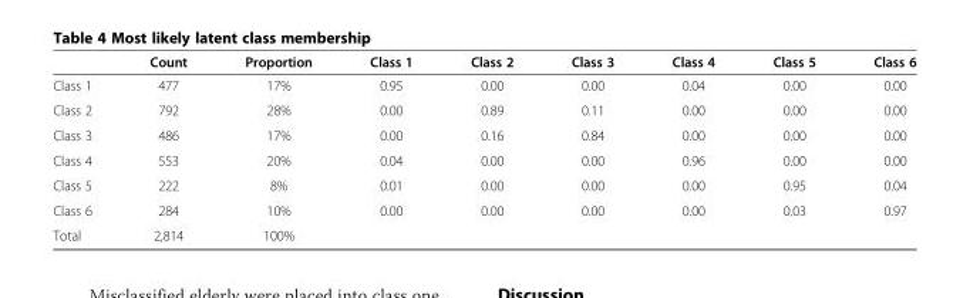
<table><thead><tr><td></td><td>Count</td><td>Proportion</td><td>Class 1</td><td>Class 2</td><td>Class 3</td><td>Class 4</td><td>Class 5</td><td>Class 6</td></tr></thead><tbody><tr><td>Class 1</td><td>477</td><td>17%</td><td>0.95</td><td>0.00</td><td>0.00</td><td>0.04</td><td>0.00</td><td>0.00</td></tr><tr><td>Class 2</td><td>792</td><td>28%</td><td>0.00</td><td>0.89</td><td>0.11</td><td>0.00</td><td>0.00</td><td>0.00</td></tr><tr><td>Class 3</td><td>486</td><td>17%</td><td>0.00</td><td>0.16</td><td>0.84</td><td>0.00</td><td>0.00</td><td>0.00</td></tr><tr><td>Class 4</td><td>553</td><td>20%</td><td>0.04</td><td>0.00</td><td>0.00</td><td>0.96</td><td>0.00</td><td>0.00</td></tr><tr><td>Class 5</td><td>222</td><td>8%</td><td>0.01</td><td>0.00</td><td>0.00</td><td>0.00</td><td>0.95</td><td>0.04</td></tr><tr><td>Class 6</td><td>284</td><td>10%</td><td>0.00</td><td>0.00</td><td>0.00</td><td>0.00</td><td>0.03</td><td>0.97</td></tr><tr><td>Total</td><td>2,814</td><td>100%</td><td></td><td></td><td></td><td></td><td></td><td></td></tr></tbody></table>